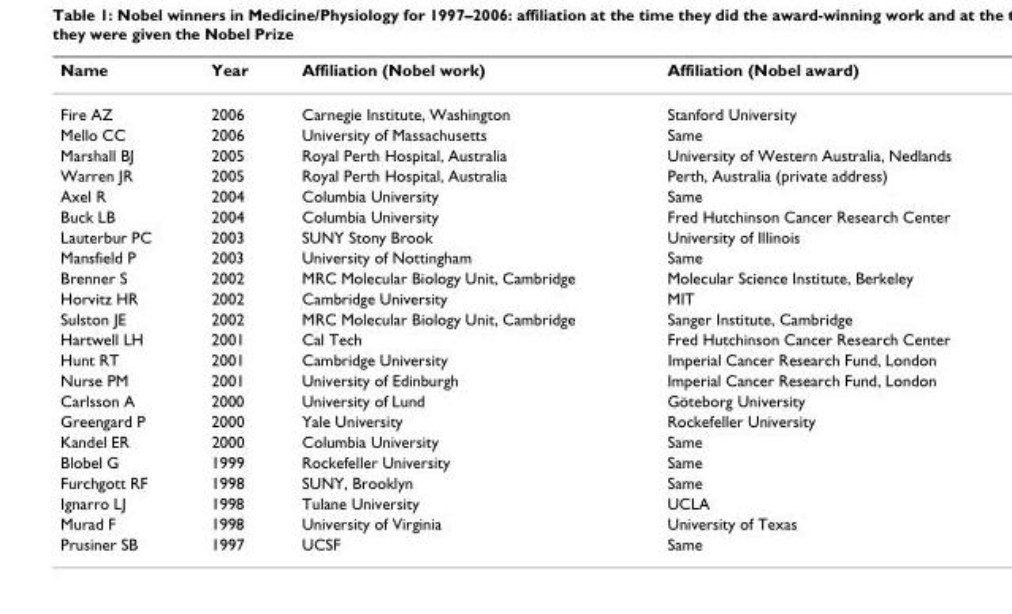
<table><thead><tr><td>Name</td><td>Year</td><td>Affiliation (Nobel work)</td><td>Affiliation (Nobel award)</td></tr></thead><tbody><tr><td>Fire AZ</td><td>2006</td><td>Carnegie Institute, Washington</td><td>Stanford University</td></tr><tr><td>Mello CC</td><td>2006</td><td>University of Massachusetts</td><td>Same</td></tr><tr><td>Marshall BJ</td><td>2005</td><td>Royal Perth Hospital, Australia</td><td>University of Western Australia, Nedlands</td></tr><tr><td>Warren JR</td><td>2005</td><td>Royal Perth Hospital, Australia</td><td>Perth, Australia (private address)</td></tr><tr><td>Axel R</td><td>2004</td><td>Columbia University</td><td>Same</td></tr><tr><td>Buck LB</td><td>2004</td><td>Columbia University</td><td>Fred Hutchinson Cancer Research Center</td></tr><tr><td>Lauterbur PC</td><td>2003</td><td>SUNY Stony Brook</td><td>University of Illinois</td></tr><tr><td>Mansfield P</td><td>2003</td><td>University of Nottingham</td><td>Same</td></tr><tr><td>Brenner S</td><td>2002</td><td>MRC Molecular Biology Unit, Cambridge</td><td>Molecular Science Institute, Berkeley</td></tr><tr><td>Horvitz HR</td><td>2002</td><td>Cambridge University</td><td>MIT</td></tr><tr><td>Sulston JE</td><td>2002</td><td>MRC Molecular Biology Unit, Cambridge</td><td>Sanger Institute, Cambridge</td></tr><tr><td>Hartwell LH</td><td>2001</td><td>Cal Tech</td><td>Fred Hutchinson Cancer Research Center</td></tr><tr><td>Hunt RT</td><td>2001</td><td>Cambridge University</td><td>Imperial Cancer Research Fund, London</td></tr><tr><td>Nurse PM</td><td>2001</td><td>University of Edinburgh</td><td>Imperial Cancer Research Fund, London</td></tr><tr><td>Carlsson A</td><td>2000</td><td>University of Lund</td><td>Göteborg University</td></tr><tr><td>Greengard P</td><td>2000</td><td>Yale University</td><td>Rockefeller University</td></tr><tr><td>Kandel ER</td><td>2000</td><td>Columbia University</td><td>Same</td></tr><tr><td>Blobel G</td><td>1999</td><td>Rockefeller University</td><td>Same</td></tr><tr><td>Furchgott RF</td><td>1998</td><td>SUNY, Brooklyn</td><td>Same</td></tr><tr><td>Ignarro LJ</td><td>1998</td><td>Tulane University</td><td>UCLA</td></tr><tr><td>Murad F</td><td>1998</td><td>University of Virginia</td><td>University of Texas</td></tr><tr><td>Prusiner SB</td><td>1997</td><td>UCSF</td><td>Same</td></tr></tbody></table>